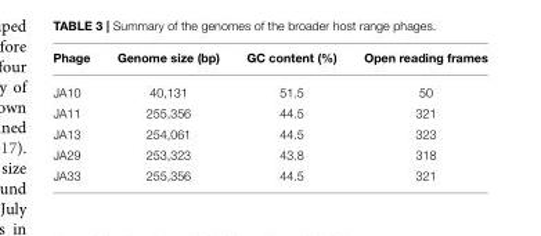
<table><thead><tr><td>Phage</td><td>Genome size (bp)</td><td>GC content (%)</td><td>Open reading frames</td></tr></thead><tbody><tr><td>JA10</td><td>40,131</td><td>51.5</td><td>50</td></tr><tr><td>JA11</td><td>255,356</td><td>44.5</td><td>321</td></tr><tr><td>JA13</td><td>254,061</td><td>44.5</td><td>323</td></tr><tr><td>JA29</td><td>253,323</td><td>43.8</td><td>318</td></tr><tr><td>JA33</td><td>255,356</td><td>44.5</td><td>321</td></tr></tbody></table>